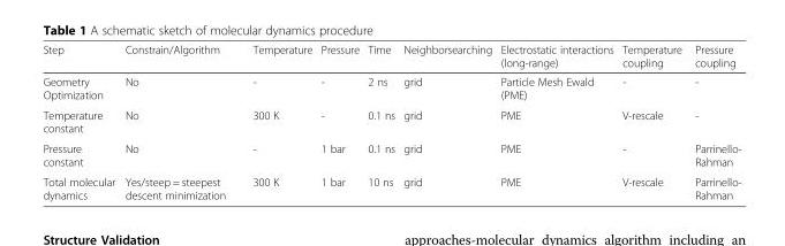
<table><thead><tr><td>Step</td><td>Constrain/Algorithm</td><td>Temperature</td><td>Pressure</td><td>Time</td><td>Neighborsearching</td><td>Electrostatic interactions (long-range)</td><td>Temperature coupling</td><td>Pressure coupling</td></tr></thead><tbody><tr><td>Geometry Optimization</td><td>No</td><td>-</td><td>-</td><td>2 ns</td><td>grid</td><td>Particle Mesh Ewald (PME)</td><td>-</td><td>-</td></tr><tr><td>Temperature constant</td><td>No</td><td>300 K</td><td>-</td><td>0.1 ns</td><td>grid</td><td>PME</td><td>V-rescale</td><td>-</td></tr><tr><td>Pressure constant</td><td>No</td><td>-</td><td>1 bar</td><td>0.1 ns</td><td>grid</td><td>PME</td><td>-</td><td>Parrinello- Rahman</td></tr><tr><td>Total molecular dynamics</td><td>Yes/steep = steepest descent minimization</td><td>300 K</td><td>1 bar</td><td>10 ns</td><td>grid</td><td>PME</td><td>V-rescale</td><td>Parrinello- Rahman</td></tr></tbody></table>